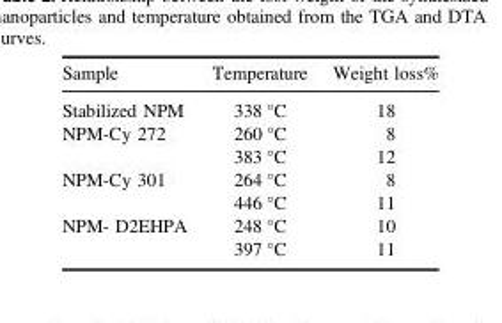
<table><thead><tr><td>Sample</td><td>Temperature</td><td>Weight loss%</td></tr></thead><tbody><tr><td>Stabilized NPM</td><td>338 °C</td><td>18</td></tr><tr><td rowspan="2">NPM-Cy 272</td><td>260 °C</td><td>8</td></tr><tr><td>383 °C</td><td>12</td></tr><tr><td rowspan="2">NPM-Cy 301</td><td>264 °C</td><td>8</td></tr><tr><td>446 °C</td><td>11</td></tr><tr><td rowspan="2">NPM- D2EHPA</td><td>248 °C</td><td>10</td></tr><tr><td>397 °C</td><td>11</td></tr></tbody></table>